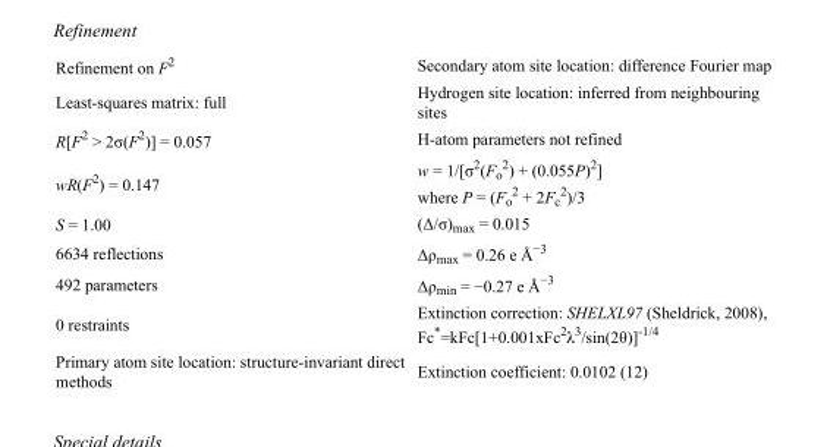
<table><tbody><tr><td>Refinement on F<sup>2</sup></td><td>Secondary atom site location: difference Fourier map</td></tr><tr><td>Least-squares matrix: full</td><td>Hydrogen site location: inferred from neighbouring sites</td></tr><tr><td>R[F<sup>2</sup> &gt; 2σ(F<sup>2</sup>)] = 0.057</td><td>H-atom parameters not refined</td></tr><tr><td>wR(F<sup>2</sup>) = 0.147</td><td>w = 1/[σ<sup>2</sup>(F<sub>o</sub> <sup>2</sup>) + (0.055P)<sup>2</sup>] where P = (F<sub>o</sub> <sup>2</sup> + 2F<sub>c</sub> <sup>2</sup>)/3</td></tr><tr><td>S = 1.00</td><td>(Δ/σ)<sub>max</sub> = 0.015</td></tr><tr><td>6634 reflections</td><td>Δρ<sub>max</sub> = 0.26 e Å<sup>−3</sup></td></tr><tr><td>492 parameters</td><td>Δρ<sub>min</sub> = −0.27 e Å<sup>−3</sup></td></tr><tr><td>0 restraints</td><td>Extinction correction: SHELXL97 (Sheldrick, 2008), Fc*=kFc[1+0.001xFc<sup>2</sup>λ<sup>3</sup>/sin(2θ)]<sup>-1/4</sup></td></tr><tr><td>Primary atom site location: structure-invariant direct methods</td><td>Extinction coefficient: 0.0102 (12)</td></tr></tbody></table>